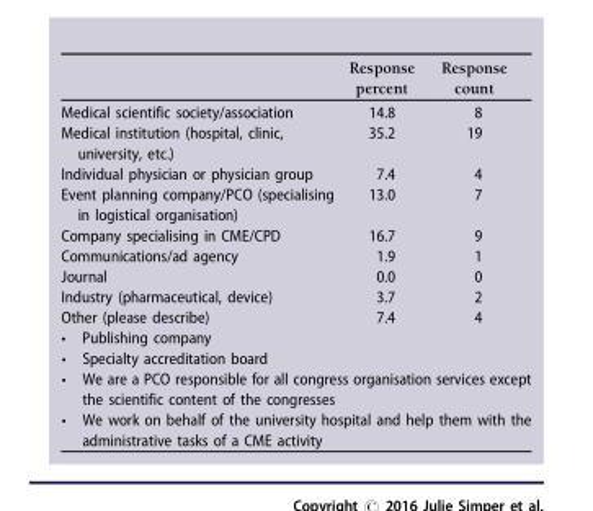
<table><thead><tr><td></td><td>Response percent</td><td>Response count</td></tr></thead><tbody><tr><td>Medical scientific society/association</td><td>14.8</td><td>8</td></tr><tr><td>Medical institution (hospital, clinic, university, etc.)</td><td>35.2</td><td>19</td></tr><tr><td>Individual physician or physician group</td><td>7.4</td><td>4</td></tr><tr><td>Event planning company/PCO (specialising in logistical organisation)</td><td>13.0</td><td>7</td></tr><tr><td>Company specialising in CME/CPD</td><td>16.7</td><td>9</td></tr><tr><td>Communications/ad agency</td><td>1.9</td><td>1</td></tr><tr><td>Journal</td><td>0.0</td><td>0</td></tr><tr><td>Industry (pharmaceutical, device)</td><td>3.7</td><td>2</td></tr><tr><td>Other (please describe)</td><td>7.4</td><td>4</td></tr><tr><td colspan="3">• Publishing company • Specialty accreditation board • We are a PCO responsible for all congress organisation services except the scientific content of the congresses • We work on behalf of the university hospital and help them with the administrative tasks of a CME activity</td></tr></tbody></table>